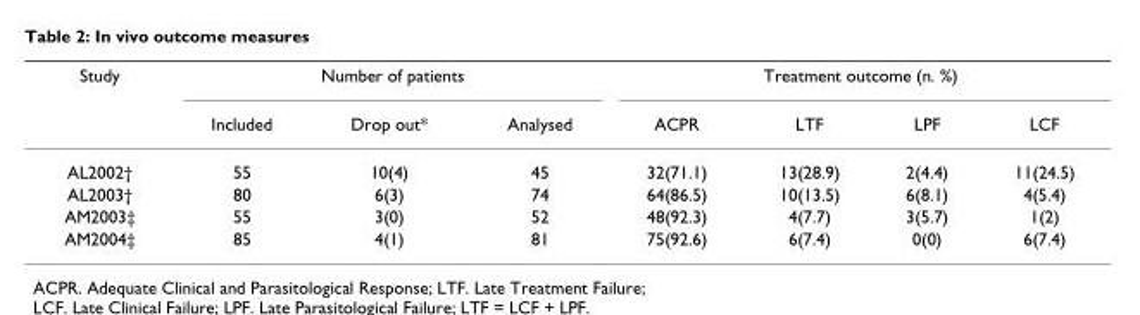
<table><thead><tr><td rowspan="2">Study</td><td colspan="3">Number of patients</td><td colspan="4">Treatment outcome (n. %)</td></tr><tr><td>Included</td><td>Drop out*</td><td>Analysed</td><td>ACPR</td><td>LTF</td><td>LPF</td><td>LCF</td></tr></thead><tbody><tr><td>AL2002†</td><td>55</td><td>10(4)</td><td>45</td><td>32(71.1)</td><td>13(28.9)</td><td>2(4.4)</td><td>11(24.5)</td></tr><tr><td>AL2003†</td><td>80</td><td>6(3)</td><td>74</td><td>64(86.5)</td><td>10(13.5)</td><td>6(8.1)</td><td>4(5.4)</td></tr><tr><td>AM2003‡</td><td>55</td><td>3(0)</td><td>52</td><td>48(92.3)</td><td>4(7.7)</td><td>3(5.7)</td><td>1(2)</td></tr><tr><td>AM2004‡</td><td>85</td><td>4(1)</td><td>81</td><td>75(92.6)</td><td>6(7.4)</td><td>0(0)</td><td>6(7.4)</td></tr></tbody></table>